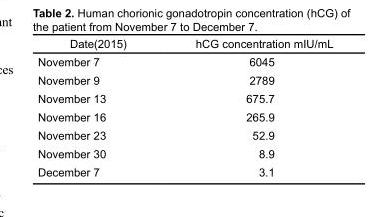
<table><thead><tr><td>Date(2015)</td><td>hCG concentration mIU/mL</td></tr></thead><tbody><tr><td>November 7</td><td>6045</td></tr><tr><td>November 9</td><td>2789</td></tr><tr><td>November 13</td><td>675.7</td></tr><tr><td>November 16</td><td>265.9</td></tr><tr><td>November 23</td><td>52.9</td></tr><tr><td>November 30</td><td>8.9</td></tr><tr><td>December 7</td><td>3.1</td></tr></tbody></table>